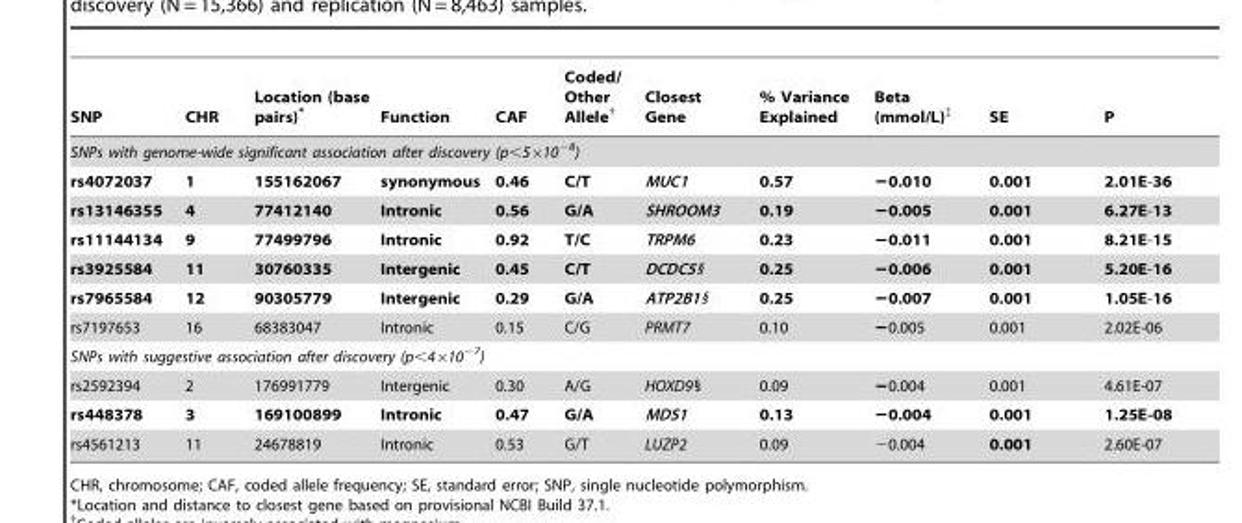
<table><thead><tr><td>SNP</td><td>CHR</td><td>Location (base pairs)*</td><td>Function</td><td>CAF</td><td>Coded/ Other Allele†</td><td>Closest Gene</td><td>% Variance Explained</td><td>Beta (mmol/L)‡</td><td>SE</td><td>P</td></tr></thead><tbody><tr><td colspan="11">SNPs with genome-wide significant association after discovery (p&lt;5×10<sup>−8</sup>)</td></tr><tr><td>rs4072037</td><td>1</td><td>155162067</td><td>synonymous</td><td>0.46</td><td>C/T</td><td>MUC1</td><td>0.57</td><td>−0.010</td><td>0.001</td><td>2.01E-36</td></tr><tr><td>rs13146355</td><td>4</td><td>77412140</td><td>Intronic</td><td>0.56</td><td>G/A</td><td>SHROOM3</td><td>0.19</td><td>−0.005</td><td>0.001</td><td>6.27E-13</td></tr><tr><td>rs11144134</td><td>9</td><td>77499796</td><td>Intronic</td><td>0.92</td><td>T/C</td><td>TRPM6</td><td>0.23</td><td>−0.011</td><td>0.001</td><td>8.21E-15</td></tr><tr><td>rs3925584</td><td>11</td><td>30760335</td><td>Intergenic</td><td>0.45</td><td>C/T</td><td>DCDC5§</td><td>0.25</td><td>−0.006</td><td>0.001</td><td>5.20E-16</td></tr><tr><td>rs7965584</td><td>12</td><td>90305779</td><td>Intergenic</td><td>0.29</td><td>G/A</td><td>ATP2B1§</td><td>0.25</td><td>−0.007</td><td>0.001</td><td>1.05E-16</td></tr><tr><td>rs7197653</td><td>16</td><td>68383047</td><td>Intronic</td><td>0.15</td><td>C/G</td><td>PRMT7</td><td>0.10</td><td>−0.005</td><td>0.001</td><td>2.02E-06</td></tr><tr><td colspan="11">SNPs with suggestive association after discovery (p&lt;4×10<sup>−7</sup>)</td></tr><tr><td>rs2592394</td><td>2</td><td>176991779</td><td>Intergenic</td><td>0.30</td><td>A/G</td><td>HOXD9§</td><td>0.09</td><td>−0.004</td><td>0.001</td><td>4.61E-07</td></tr><tr><td>rs448378</td><td>3</td><td>169100899</td><td>Intronic</td><td>0.47</td><td>G/A</td><td>MDS1</td><td>0.13</td><td>−0.004</td><td>0.001</td><td>1.25E-08</td></tr><tr><td>rs4561213</td><td>11</td><td>24678819</td><td>Intronic</td><td>0.53</td><td>G/T</td><td>LUZP2</td><td>0.09</td><td>−0.004</td><td>0.001</td><td>2.60E-07</td></tr></tbody></table>